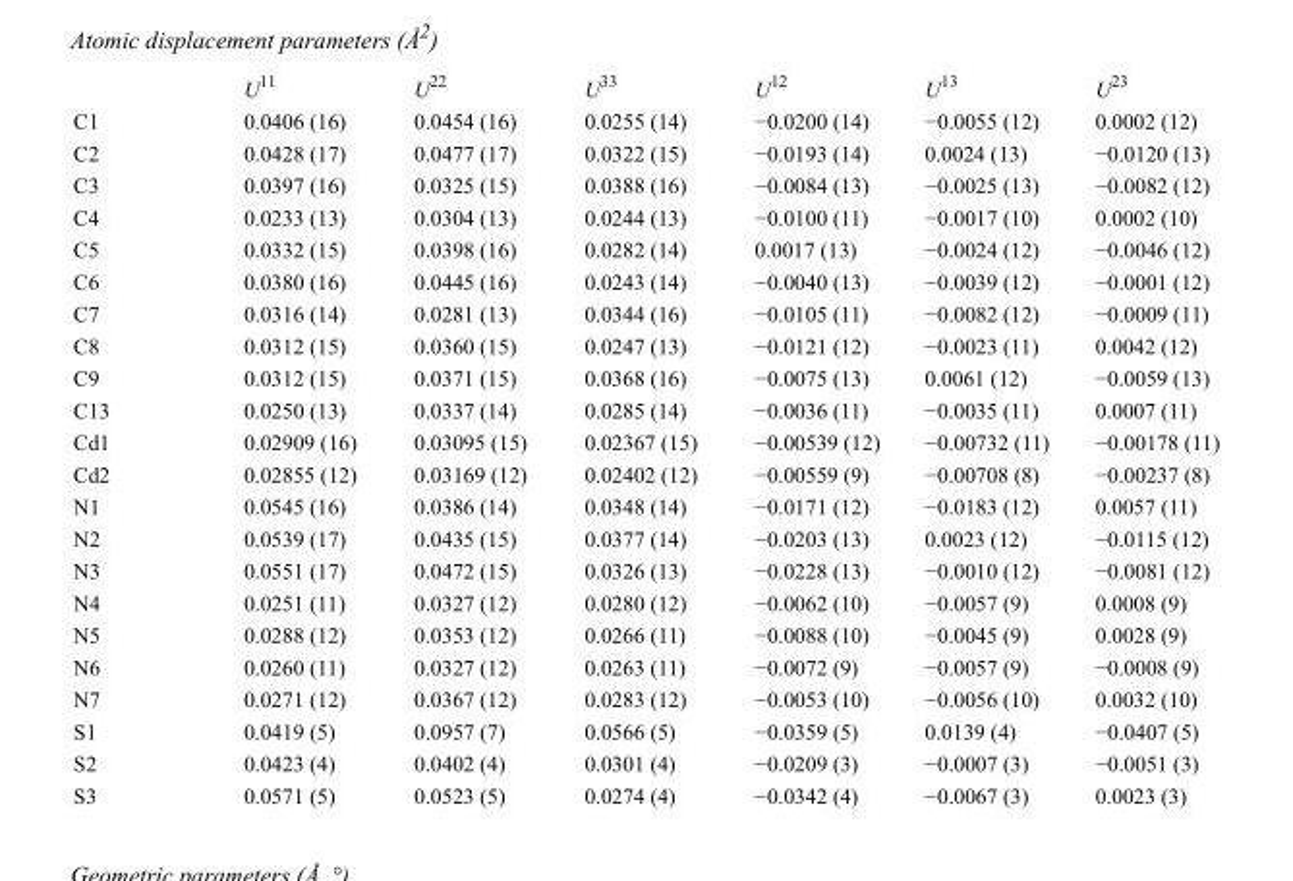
<table><thead><tr><td></td><td>U<sup>11</sup></td><td>U<sup>22</sup></td><td>U<sup>33</sup></td><td>U<sup>12</sup></td><td>U<sup>13</sup></td><td>U<sup>23</sup></td></tr></thead><tbody><tr><td>C1</td><td>0.0406 (16)</td><td>0.0454 (16)</td><td>0.0255 (14)</td><td>−0.0200 (14)</td><td>−0.0055 (12)</td><td>0.0002 (12)</td></tr><tr><td>C2</td><td>0.0428 (17)</td><td>0.0477 (17)</td><td>0.0322 (15)</td><td>−0.0193 (14)</td><td>0.0024 (13)</td><td>−0.0120 (13)</td></tr><tr><td>C3</td><td>0.0397 (16)</td><td>0.0325 (15)</td><td>0.0388 (16)</td><td>−0.0084 (13)</td><td>−0.0025 (13)</td><td>−0.0082 (12)</td></tr><tr><td>C4</td><td>0.0233 (13)</td><td>0.0304 (13)</td><td>0.0244 (13)</td><td>−0.0100 (11)</td><td>−0.0017 (10)</td><td>0.0002 (10)</td></tr><tr><td>C5</td><td>0.0332 (15)</td><td>0.0398 (16)</td><td>0.0282 (14)</td><td>0.0017 (13)</td><td>−0.0024 (12)</td><td>−0.0046 (12)</td></tr><tr><td>C6</td><td>0.0380 (16)</td><td>0.0445 (16)</td><td>0.0243 (14)</td><td>−0.0040 (13)</td><td>−0.0039 (12)</td><td>−0.0001 (12)</td></tr><tr><td>C7</td><td>0.0316 (14)</td><td>0.0281 (13)</td><td>0.0344 (16)</td><td>−0.0105 (11)</td><td>−0.0082 (12)</td><td>−0.0009 (11)</td></tr><tr><td>C8</td><td>0.0312 (15)</td><td>0.0360 (15)</td><td>0.0247 (13)</td><td>−0.0121 (12)</td><td>−0.0023 (11)</td><td>0.0042 (12)</td></tr><tr><td>C9</td><td>0.0312 (15)</td><td>0.0371 (15)</td><td>0.0368 (16)</td><td>−0.0075 (13)</td><td>0.0061 (12)</td><td>−0.0059 (13)</td></tr><tr><td>C13</td><td>0.0250 (13)</td><td>0.0337 (14)</td><td>0.0285 (14)</td><td>−0.0036 (11)</td><td>−0.0035 (11)</td><td>0.0007 (11)</td></tr><tr><td>Cd1</td><td>0.02909 (16)</td><td>0.03095 (15)</td><td>0.02367 (15)</td><td>−0.00539 (12)</td><td>−0.00732 (11)</td><td>−0.00178 (11)</td></tr><tr><td>Cd2</td><td>0.02855 (12)</td><td>0.03169 (12)</td><td>0.02402 (12)</td><td>−0.00559 (9)</td><td>−0.00708 (8)</td><td>−0.00237 (8)</td></tr><tr><td>N1</td><td>0.0545 (16)</td><td>0.0386 (14)</td><td>0.0348 (14)</td><td>−0.0171 (12)</td><td>−0.0183 (12)</td><td>0.0057 (11)</td></tr><tr><td>N2</td><td>0.0539 (17)</td><td>0.0435 (15)</td><td>0.0377 (14)</td><td>−0.0203 (13)</td><td>0.0023 (12)</td><td>−0.0115 (12)</td></tr><tr><td>N3</td><td>0.0551 (17)</td><td>0.0472 (15)</td><td>0.0326 (13)</td><td>−0.0228 (13)</td><td>−0.0010 (12)</td><td>−0.0081 (12)</td></tr><tr><td>N4</td><td>0.0251 (11)</td><td>0.0327 (12)</td><td>0.0280 (12)</td><td>−0.0062 (10)</td><td>−0.0057 (9)</td><td>0.0008 (9)</td></tr><tr><td>N5</td><td>0.0288 (12)</td><td>0.0353 (12)</td><td>0.0266 (11)</td><td>−0.0088 (10)</td><td>−0.0045 (9)</td><td>0.0028 (9)</td></tr><tr><td>N6</td><td>0.0260 (11)</td><td>0.0327 (12)</td><td>0.0263 (11)</td><td>−0.0072 (9)</td><td>−0.0057 (9)</td><td>−0.0008 (9)</td></tr><tr><td>N7</td><td>0.0271 (12)</td><td>0.0367 (12)</td><td>0.0283 (12)</td><td>−0.0053 (10)</td><td>−0.0056 (10)</td><td>0.0032 (10)</td></tr><tr><td>S1</td><td>0.0419 (5)</td><td>0.0957 (7)</td><td>0.0566 (5)</td><td>−0.0359 (5)</td><td>0.0139 (4)</td><td>−0.0407 (5)</td></tr><tr><td>S2</td><td>0.0423 (4)</td><td>0.0402 (4)</td><td>0.0301 (4)</td><td>−0.0209 (3)</td><td>−0.0007 (3)</td><td>−0.0051 (3)</td></tr><tr><td>S3</td><td>0.0571 (5)</td><td>0.0523 (5)</td><td>0.0274 (4)</td><td>−0.0342 (4)</td><td>−0.0067 (3)</td><td>0.0023 (3)</td></tr></tbody></table>